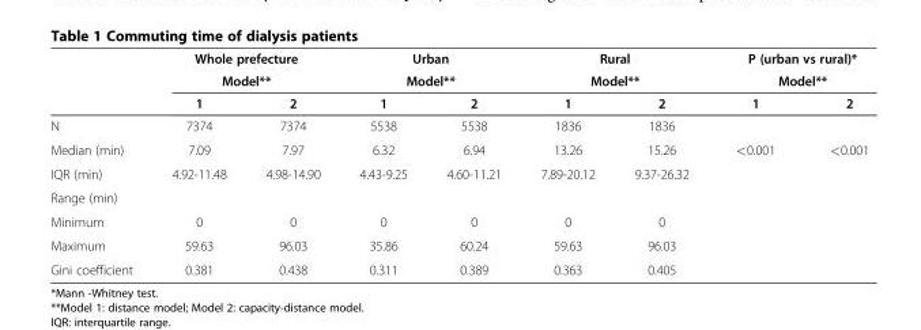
<table><thead><tr><td rowspan="3"></td><td rowspan="2" colspan="2">Whole prefecture Model**</td><td rowspan="2" colspan="2">Urban Model**</td><td rowspan="2" colspan="2">Rural Model**</td><td rowspan="2" colspan="2">P (urban vs rural)* Model**</td></tr><tr></tr><tr><td>1</td><td>2</td><td>1</td><td>2</td><td>1</td><td>2</td><td>1</td><td>2</td></tr></thead><tbody><tr><td>N</td><td>7374</td><td>7374</td><td>5538</td><td>5538</td><td>1836</td><td>1836</td><td></td><td></td></tr><tr><td>Median (min)</td><td>7.09</td><td>7.97</td><td>6.32</td><td>6.94</td><td>13.26</td><td>15.26</td><td>&lt;0.001</td><td>&lt;0.001</td></tr><tr><td>IQR (min)</td><td>4.92-11.48</td><td>4.98-14.90</td><td>4.43-9.25</td><td>4.60-11.21</td><td>7.89-20.12</td><td>9.37-26.32</td><td></td><td></td></tr><tr><td colspan="9">Range (min)</td></tr><tr><td>Minimum</td><td>0</td><td>0</td><td>0</td><td>0</td><td>0</td><td>0</td><td></td><td></td></tr><tr><td>Maximum</td><td>59.63</td><td>96.03</td><td>35.86</td><td>60.24</td><td>59.63</td><td>96.03</td><td></td><td></td></tr><tr><td>Gini coefficient</td><td>0.381</td><td>0.438</td><td>0.311</td><td>0.389</td><td>0.363</td><td>0.405</td><td></td><td></td></tr></tbody></table>